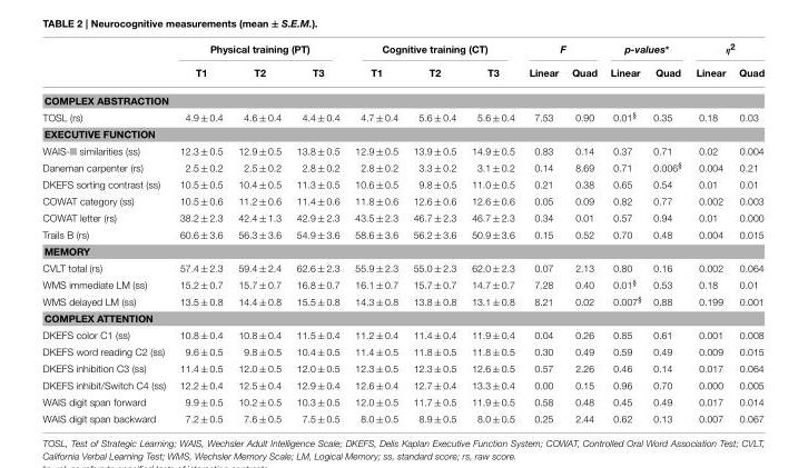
<table><thead><tr><td rowspan="2"></td><td colspan="3">Physical training (PT)</td><td colspan="3">Cognitive training (CT)</td><td colspan="2">F</td><td colspan="2">p-values*</td><td colspan="2">η<sup>2</sup></td></tr><tr><td>T1</td><td>T2</td><td>T3</td><td>T1</td><td>T2</td><td>T3</td><td>Linear</td><td>Quad</td><td>Linear</td><td>Quad</td><td>Linear</td><td>Quad</td></tr></thead><tbody><tr><td colspan="13">COMPLEX ABSTRACTION</td></tr><tr><td>TOSL (rs)</td><td>4.9 ± 0.4</td><td>4.6 ± 0.4</td><td>4.4 ± 0.4</td><td>4.7 ± 0.4</td><td>5.6 ± 0.4</td><td>5.6 ± 0.4</td><td>7.53</td><td>0.90</td><td>0.01<sup>§</sup></td><td>0.35</td><td>0.18</td><td>0.03</td></tr><tr><td colspan="13">EXECUTIVE FUNCTION</td></tr><tr><td>WAIS-III similarities (ss)</td><td>12.3 ± 0.5</td><td>12.9 ± 0.5</td><td>13.8 ± 0.5</td><td>12.9 ± 0.5</td><td>13.9 ± 0.5</td><td>14.9 ± 0.5</td><td>0.83</td><td>0.14</td><td>0.37</td><td>0.71</td><td>0.02</td><td>0.004</td></tr><tr><td>Daneman carpenter (rs)</td><td>2.5 ± 0.2</td><td>2.5 ± 0.2</td><td>2.8 ± 0.2</td><td>2.8 ± 0.2</td><td>3.3 ± 0.2</td><td>3.1 ± 0.2</td><td>0.14</td><td>8.69</td><td>0.71</td><td>0.006<sup>§</sup></td><td>0.004</td><td>0.21</td></tr><tr><td>DKEFS sorting contrast (ss)</td><td>10.5 ± 0.5</td><td>10.4 ± 0.5</td><td>11.3 ± 0.5</td><td>10.6 ± 0.5</td><td>9.8 ± 0.5</td><td>11.0 ± 0.5</td><td>0.21</td><td>0.38</td><td>0.65</td><td>0.54</td><td>0.01</td><td>0.01</td></tr><tr><td>COWAT category (ss)</td><td>10.5 ± 0.6</td><td>11.2 ± 0.6</td><td>11.4 ± 0.6</td><td>11.8 ± 0.6</td><td>12.6 ± 0.6</td><td>12.6 ± 0.6</td><td>0.05</td><td>0.09</td><td>0.82</td><td>0.77</td><td>0.002</td><td>0.003</td></tr><tr><td>COWAT letter (rs)</td><td>38.2 ± 2.3</td><td>42.4 ± 1.3</td><td>42.9 ± 2.3</td><td>43.5 ± 2.3</td><td>46.7 ± 2.3</td><td>46.7 ± 2.3</td><td>0.34</td><td>0.01</td><td>0.57</td><td>0.94</td><td>0.01</td><td>0.000</td></tr><tr><td>Trails B (rs)</td><td>60.6 ± 3.6</td><td>56.3 ± 3.6</td><td>54.9 ± 3.6</td><td>58.6 ± 3.6</td><td>56.2 ± 3.6</td><td>50.9 ± 3.6</td><td>0.15</td><td>0.52</td><td>0.70</td><td>0.48</td><td>0.004</td><td>0.015</td></tr><tr><td colspan="13">MEMORY</td></tr><tr><td>CVLT total (rs)</td><td>57.4 ± 2.3</td><td>59.4 ± 2.4</td><td>62.6 ± 2.3</td><td>55.9 ± 2.3</td><td>55.0 ± 2.3</td><td>62.0 ± 2.3</td><td>0.07</td><td>2.13</td><td>0.80</td><td>0.16</td><td>0.002</td><td>0.064</td></tr><tr><td>WMS immediate LM (ss)</td><td>15.2 ± 0.7</td><td>15.7 ± 0.7</td><td>16.8 ± 0.7</td><td>16.1 ± 0.7</td><td>15.7 ± 0.7</td><td>14.7 ± 0.7</td><td>7.28</td><td>0.40</td><td>0.01<sup>§</sup></td><td>0.53</td><td>0.18</td><td>0.01</td></tr><tr><td>WMS delayed LM (ss)</td><td>13.5 ± 0.8</td><td>14.4 ± 0.8</td><td>15.5 ± 0.8</td><td>14.3 ± 0.8</td><td>13.8 ± 0.8</td><td>13.1 ± 0.8</td><td>8.21</td><td>0.02</td><td>0.007<sup>§</sup></td><td>0.88</td><td>0.199</td><td>0.001</td></tr><tr><td colspan="13">COMPLEX ATTENTION</td></tr><tr><td>DKEFS color C1 (ss)</td><td>10.8 ± 0.4</td><td>10.8 ± 0.4</td><td>11.5 ± 0.4</td><td>11.2 ± 0.4</td><td>11.4 ± 0.4</td><td>11.9 ± 0.4</td><td>0.04</td><td>0.26</td><td>0.85</td><td>0.61</td><td>0.001</td><td>0.008</td></tr><tr><td>DKEFS word reading C2 (ss)</td><td>9.6 ± 0.5</td><td>9.8 ± 0.5</td><td>10.4 ± 0.5</td><td>11.4 ± 0.5</td><td>11.8 ± 0.5</td><td>11.8 ± 0.5</td><td>0.30</td><td>0.49</td><td>0.59</td><td>0.49</td><td>0.009</td><td>0.015</td></tr><tr><td>DKEFS inhibition C3 (ss)</td><td>11.4 ± 0.5</td><td>12.0 ± 0.5</td><td>12.0 ± 0.5</td><td>12.3 ± 0.5</td><td>12.3 ± 0.5</td><td>12.6 ± 0.5</td><td>0.57</td><td>2.26</td><td>0.46</td><td>0.14</td><td>0.017</td><td>0.064</td></tr><tr><td>DKEFS inhibit/Switch C4 (ss)</td><td>12.2 ± 0.4</td><td>12.5 ± 0.4</td><td>12.9 ± 0.4</td><td>12.6 ± 0.4</td><td>12.7 ± 0.4</td><td>13.3 ± 0.4</td><td>0.00</td><td>0.15</td><td>0.96</td><td>0.70</td><td>0.000</td><td>0.005</td></tr><tr><td>WAIS digit span forward</td><td>9.9 ± 0.5</td><td>10.2 ± 0.5</td><td>10.3 ± 0.5</td><td>12.0 ± 0.5</td><td>11.7 ± 0.5</td><td>11.9 ± 0.5</td><td>0.58</td><td>0.48</td><td>0.45</td><td>0.49</td><td>0.017</td><td>0.014</td></tr><tr><td>WAIS digit span backward</td><td>7.2 ± 0.5</td><td>7.6 ± 0.5</td><td>7.5 ± 0.5</td><td>8.0 ± 0.5</td><td>8.9 ± 0.5</td><td>8.0 ± 0.5</td><td>0.25</td><td>2.44</td><td>0.62</td><td>0.13</td><td>0.007</td><td>0.067</td></tr></tbody></table>